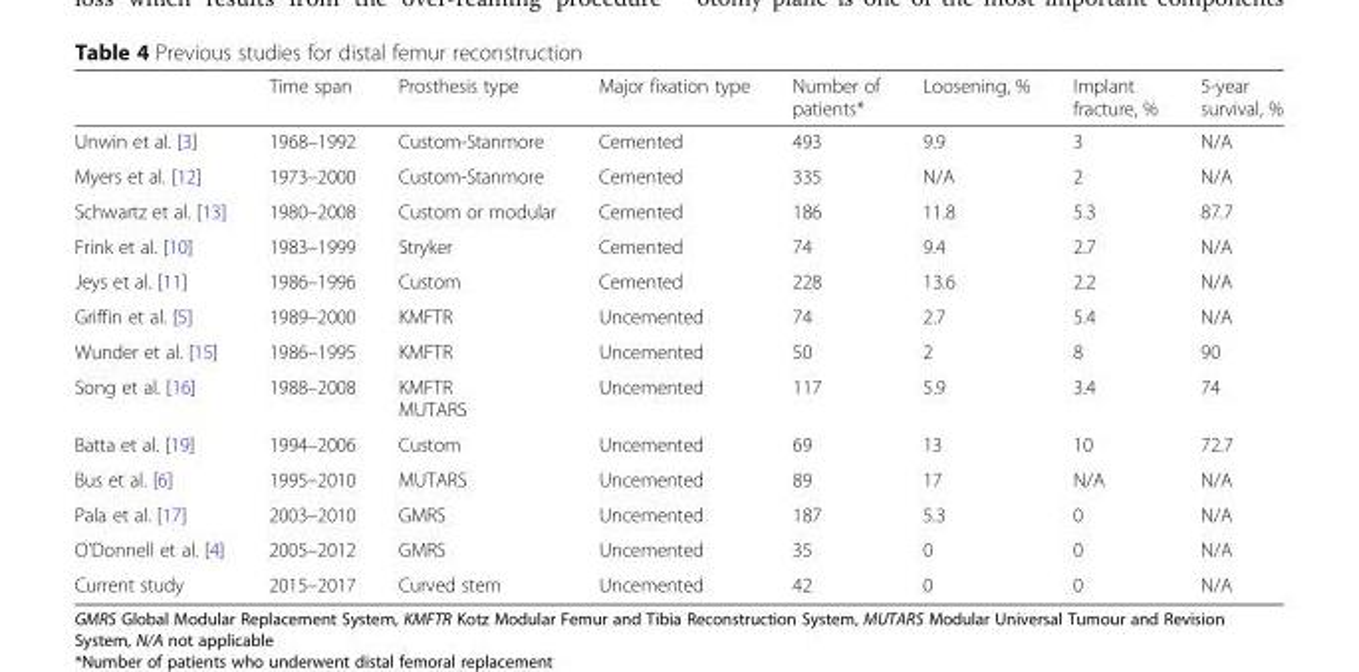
<table><thead><tr><td></td><td>Time span</td><td>Prosthesis type</td><td>Major fixation type</td><td>Number of patients*</td><td>Loosening, %</td><td>Implant fracture, %</td><td>5-year survival, %</td></tr></thead><tbody><tr><td>Unwin et al. [3]</td><td>1968–1992</td><td>Custom-Stanmore</td><td>Cemented</td><td>493</td><td>9.9</td><td>3</td><td>N/A</td></tr><tr><td>Myers et al. [12]</td><td>1973–2000</td><td>Custom-Stanmore</td><td>Cemented</td><td>335</td><td>N/A</td><td>2</td><td>N/A</td></tr><tr><td>Schwartz et al. [13]</td><td>1980–2008</td><td>Custom or modular</td><td>Cemented</td><td>186</td><td>11.8</td><td>5.3</td><td>87.7</td></tr><tr><td>Frink et al. [10]</td><td>1983–1999</td><td>Stryker</td><td>Cemented</td><td>74</td><td>9.4</td><td>2.7</td><td>N/A</td></tr><tr><td>Jeys et al. [11]</td><td>1986–1996</td><td>Custom</td><td>Cemented</td><td>228</td><td>13.6</td><td>2.2</td><td>N/A</td></tr><tr><td>Griffin et al. [5]</td><td>1989–2000</td><td>KMFTR</td><td>Uncemented</td><td>74</td><td>2.7</td><td>5.4</td><td>N/A</td></tr><tr><td>Wunder et al. [15]</td><td>1986–1995</td><td>KMFTR</td><td>Uncemented</td><td>50</td><td>2</td><td>8</td><td>90</td></tr><tr><td>Song et al. [16]</td><td>1988–2008</td><td>KMFTR MUTARS</td><td>Uncemented</td><td>117</td><td>5.9</td><td>3.4</td><td>74</td></tr><tr><td>Batta et al. [19]</td><td>1994–2006</td><td>Custom</td><td>Uncemented</td><td>69</td><td>13</td><td>10</td><td>72.7</td></tr><tr><td>Bus et al. [6]</td><td>1995–2010</td><td>MUTARS</td><td>Uncemented</td><td>89</td><td>17</td><td>N/A</td><td>N/A</td></tr><tr><td>Pala et al. [17]</td><td>2003–2010</td><td>GMRS</td><td>Uncemented</td><td>187</td><td>5.3</td><td>0</td><td>N/A</td></tr><tr><td>O’Donnell et al. [4]</td><td>2005–2012</td><td>GMRS</td><td>Uncemented</td><td>35</td><td>0</td><td>0</td><td>N/A</td></tr><tr><td>Current study</td><td>2015–2017</td><td>Curved stem</td><td>Uncemented</td><td>42</td><td>0</td><td>0</td><td>N/A</td></tr></tbody></table>